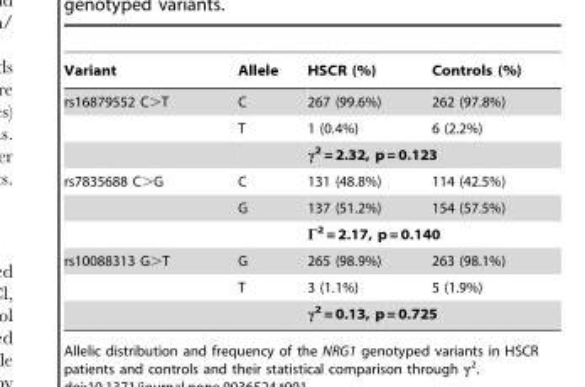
<table><thead><tr><td>Variant</td><td>Allele</td><td>HSCR (%)</td><td>Controls (%)</td></tr></thead><tbody><tr><td rowspan="3">rs16879552 C&gt;T</td><td>C</td><td>267 (99.6%)</td><td>262 (97.8%)</td></tr><tr><td>T</td><td>1 (0.4%)</td><td>6 (2.2%)</td></tr><tr><td></td><td colspan="2">γ<sup>2</sup> = 2.32, p = 0.123</td></tr><tr><td rowspan="3">rs7835688 C&gt;G</td><td>C</td><td>131 (48.8%)</td><td>114 (42.5%)</td></tr><tr><td>G</td><td>137 (51.2%)</td><td>154 (57.5%)</td></tr><tr><td></td><td colspan="2">Γ<sup>2</sup> = 2.17, p = 0.140</td></tr><tr><td rowspan="3">rs10088313 G&gt;T</td><td>G</td><td>265 (98.9%)</td><td>263 (98.1%)</td></tr><tr><td>T</td><td>3 (1.1%)</td><td>5 (1.9%)</td></tr><tr><td></td><td colspan="2">γ<sup>2</sup> = 0.13, p = 0.725</td></tr></tbody></table>